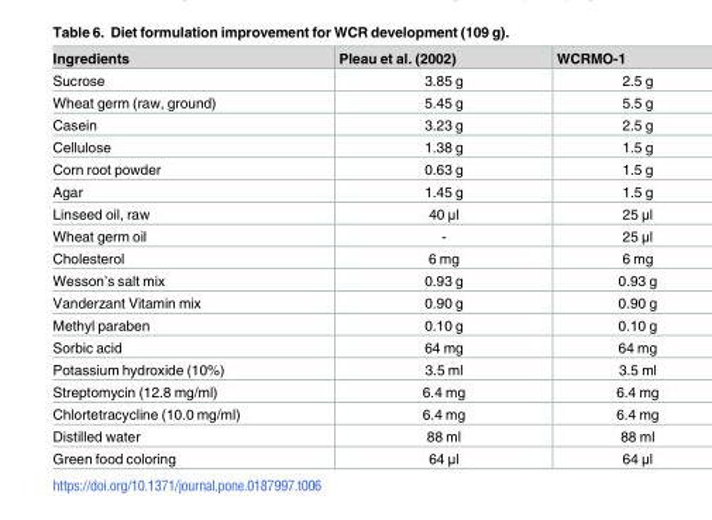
<table><thead><tr><td>Ingredients</td><td>Pleau et al. (2002)</td><td>WCRMO-1</td></tr></thead><tbody><tr><td>Sucrose</td><td>3.85 g</td><td>2.5 g</td></tr><tr><td>Wheat germ (raw, ground)</td><td>5.45 g</td><td>5.5 g</td></tr><tr><td>Casein</td><td>3.23 g</td><td>2.5 g</td></tr><tr><td>Cellulose</td><td>1.38 g</td><td>1.5 g</td></tr><tr><td>Corn root powder</td><td>0.63 g</td><td>1.5 g</td></tr><tr><td>Agar</td><td>1.45 g</td><td>1.5 g</td></tr><tr><td>Linseed oil, raw</td><td>40 μl</td><td>25 μl</td></tr><tr><td>Wheat germ oil</td><td>-</td><td>25 μl</td></tr><tr><td>Cholesterol</td><td>6 mg</td><td>6 mg</td></tr><tr><td>Wesson’s salt mix</td><td>0.93 g</td><td>0.93 g</td></tr><tr><td>Vanderzant Vitamin mix</td><td>0.90 g</td><td>0.90 g</td></tr><tr><td>Methyl paraben</td><td>0.10 g</td><td>0.10 g</td></tr><tr><td>Sorbic acid</td><td>64 mg</td><td>64 mg</td></tr><tr><td>Potassium hydroxide (10%)</td><td>3.5 ml</td><td>3.5 ml</td></tr><tr><td>Streptomycin (12.8 mg/ml)</td><td>6.4 mg</td><td>6.4 mg</td></tr><tr><td>Chlortetracycline (10.0 mg/ml)</td><td>6.4 mg</td><td>6.4 mg</td></tr><tr><td>Distilled water</td><td>88 ml</td><td>88 ml</td></tr><tr><td>Green food coloring</td><td>64 μl</td><td>64 μl</td></tr></tbody></table>